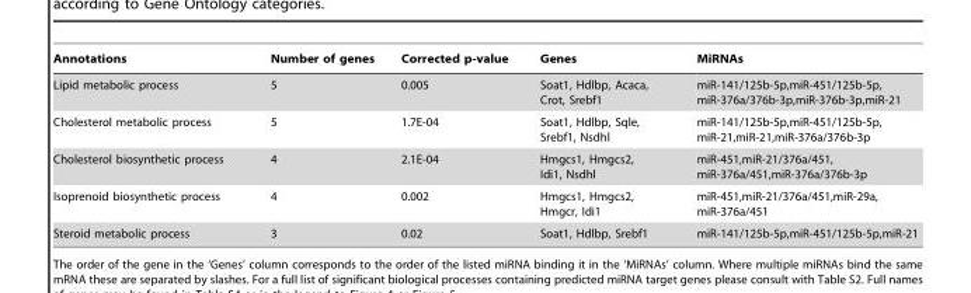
<table><thead><tr><td>Annotations</td><td>Number of genes</td><td>Corrected p-value</td><td>Genes</td><td>MiRNAs</td></tr></thead><tbody><tr><td>Lipid metabolic process</td><td>5</td><td>0.005</td><td>Soat1, Hdlbp, Acaca, Crot, Srebf1</td><td>miR-141/125b-5p,miR-451/125b-5p, miR-376a/376b-3p,miR-376b-3p,miR-21</td></tr><tr><td>Cholesterol metabolic process</td><td>5</td><td>1.7E-04</td><td>Soat1, Hdlbp, Sqle, Srebf1, Nsdhl</td><td>miR-141/125b-5p,miR-451/125b-5p, miR-21,miR-21,miR-376a/376b-3p</td></tr><tr><td>Cholesterol biosynthetic process</td><td>4</td><td>2.1E-04</td><td>Hmgcs1, Hmgcs2, Idi1, Nsdhl</td><td>miR-451,miR-21/376a/451, miR-376a/451,miR-376a/376b-3p</td></tr><tr><td>Isoprenoid biosynthetic process</td><td>4</td><td>0.002</td><td>Hmgcs1, Hmgcs2, Hmgcr, Idi1</td><td>miR-451,miR-21/376a/451,miR-29a, miR-376a/451</td></tr><tr><td>Steroid metabolic process</td><td>3</td><td>0.02</td><td>Soat1, Hdlbp, Srebf1</td><td>miR-141/125b-5p,miR-451/125b-5p,miR-21</td></tr></tbody></table>